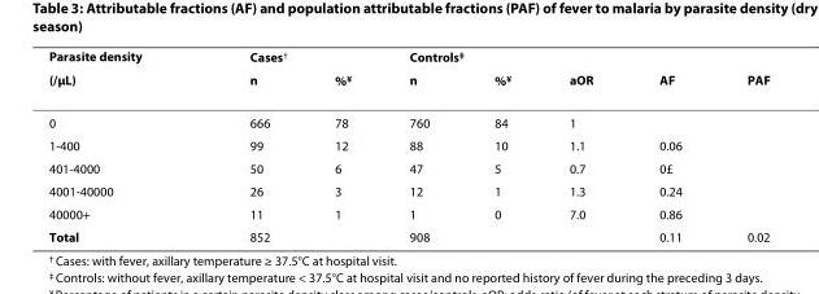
<table><thead><tr><td rowspan="2">Parasite density (/μL)</td><td colspan="2">Cases<sup>†</sup></td><td colspan="2">Controls<sup>‡</sup></td><td rowspan="2">aOR</td><td rowspan="2">AF</td><td rowspan="2">PAF</td></tr><tr><td>n</td><td>%<sup>¥</sup></td><td>n</td><td>%<sup>¥</sup></td></tr></thead><tbody><tr><td>0</td><td>666</td><td>78</td><td>760</td><td>84</td><td>1</td><td></td><td></td></tr><tr><td>1-400</td><td>99</td><td>12</td><td>88</td><td>10</td><td>1.1</td><td>0.06</td><td></td></tr><tr><td>401-4000</td><td>50</td><td>6</td><td>47</td><td>5</td><td>0.7</td><td>0£</td><td></td></tr><tr><td>4001-40000</td><td>26</td><td>3</td><td>12</td><td>1</td><td>1.3</td><td>0.24</td><td></td></tr><tr><td>40000+</td><td>11</td><td>1</td><td>1</td><td>0</td><td>7.0</td><td>0.86</td><td></td></tr><tr><td>Total</td><td>852</td><td></td><td>908</td><td></td><td></td><td>0.11</td><td>0.02</td></tr></tbody></table>